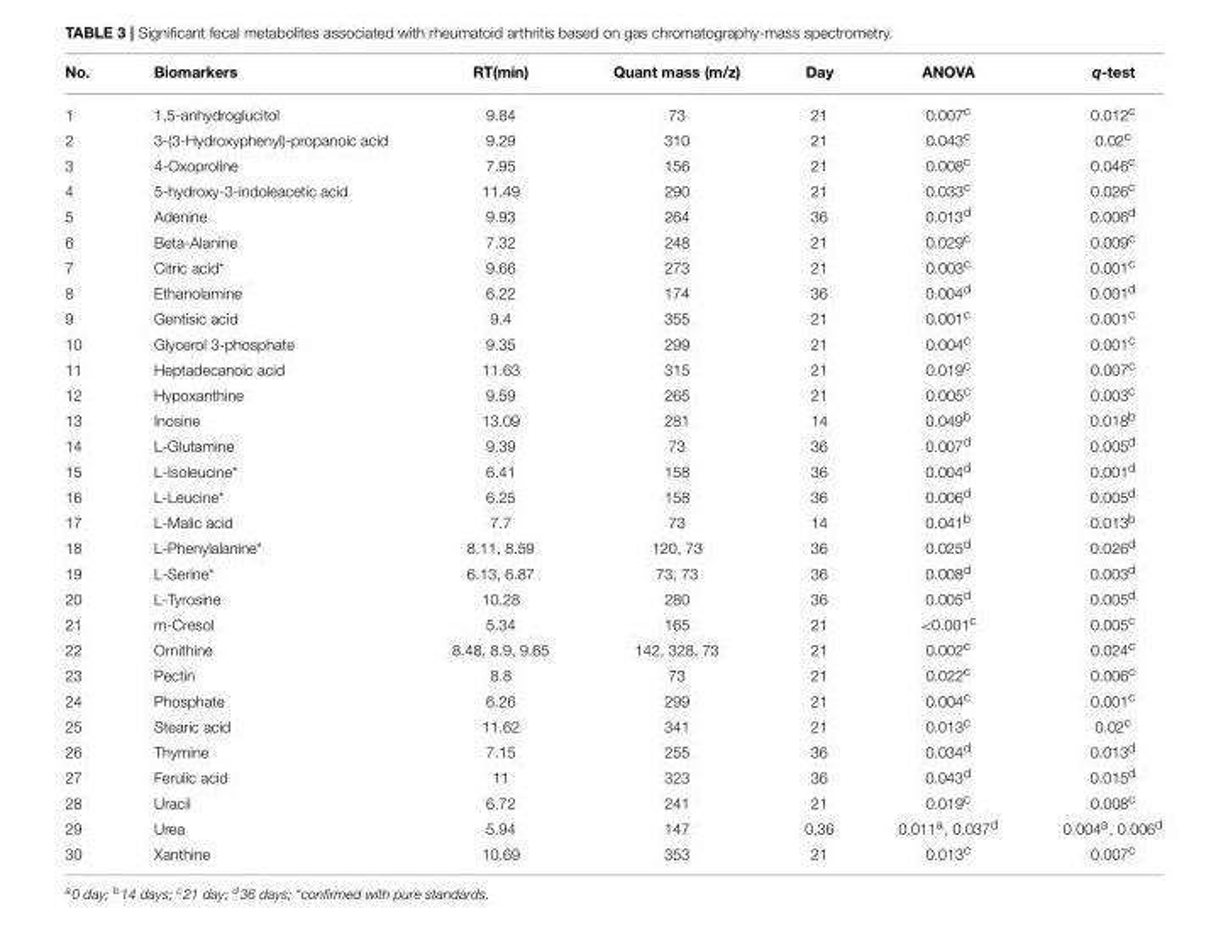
<table><thead><tr><td>No.</td><td>Biomarkers</td><td>RT(min)</td><td>Quant mass (m/z)</td><td>Day</td><td>ANOVA</td><td>q-test</td></tr></thead><tbody><tr><td>1</td><td>1,5-anhydroglucitol</td><td>9.84</td><td>73</td><td>21</td><td>0.007<sup>c</sup></td><td>0.012<sup>c</sup></td></tr><tr><td>2</td><td>3-(3-Hydroxyphenyl)-propanoic acid</td><td>9.29</td><td>310</td><td>21</td><td>0.043<sup>c</sup></td><td>0.02<sup>c</sup></td></tr><tr><td>3</td><td>4-Oxoproline</td><td>7.95</td><td>156</td><td>21</td><td>0.008<sup>c</sup></td><td>0.046<sup>c</sup></td></tr><tr><td>4</td><td>5-hydroxy-3-indoleacetic acid</td><td>11.49</td><td>290</td><td>21</td><td>0.033<sup>c</sup></td><td>0.026<sup>c</sup></td></tr><tr><td>5</td><td>Adenine</td><td>9.93</td><td>264</td><td>36</td><td>0.013<sup>d</sup></td><td>0.006<sup>d</sup></td></tr><tr><td>6</td><td>Beta-Alanine</td><td>7.32</td><td>248</td><td>21</td><td>0.029<sup>c</sup></td><td>0.009<sup>c</sup></td></tr><tr><td>7</td><td>Citric acid*</td><td>9.66</td><td>273</td><td>21</td><td>0.003<sup>c</sup></td><td>0.001<sup>c</sup></td></tr><tr><td>8</td><td>Ethanolamine</td><td>6.22</td><td>174</td><td>36</td><td>0.004<sup>d</sup></td><td>0.001<sup>d</sup></td></tr><tr><td>9</td><td>Gentisic acid</td><td>9.4</td><td>355</td><td>21</td><td>0.001<sup>c</sup></td><td>0.001<sup>c</sup></td></tr><tr><td>10</td><td>Glycerol 3-phosphate</td><td>9.35</td><td>299</td><td>21</td><td>0.004<sup>c</sup></td><td>0.001<sup>c</sup></td></tr><tr><td>11</td><td>Heptadecanoic acid</td><td>11.63</td><td>315</td><td>21</td><td>0.019<sup>c</sup></td><td>0.007<sup>c</sup></td></tr><tr><td>12</td><td>Hypoxanthine</td><td>9.59</td><td>265</td><td>21</td><td>0.005<sup>c</sup></td><td>0.003<sup>c</sup></td></tr><tr><td>13</td><td>Inosine</td><td>13.09</td><td>281</td><td>14</td><td>0.049<sup>b</sup></td><td>0.018<sup>b</sup></td></tr><tr><td>14</td><td>L-Glutamine</td><td>9.39</td><td>73</td><td>36</td><td>0.007<sup>d</sup></td><td>0.005<sup>d</sup></td></tr><tr><td>15</td><td>L-Isoleucine*</td><td>6.41</td><td>158</td><td>36</td><td>0.004<sup>d</sup></td><td>0.001<sup>d</sup></td></tr><tr><td>16</td><td>L-Leucine*</td><td>6.25</td><td>158</td><td>36</td><td>0.006<sup>d</sup></td><td>0.005<sup>d</sup></td></tr><tr><td>17</td><td>L-Malic acid</td><td>7.7</td><td>73</td><td>14</td><td>0.041<sup>b</sup></td><td>0.013<sup>b</sup></td></tr><tr><td>18</td><td>L-Phenylalanine*</td><td>8.11, 8.59</td><td>120, 73</td><td>36</td><td>0.025<sup>d</sup></td><td>0.026<sup>d</sup></td></tr><tr><td>19</td><td>L-Serine*</td><td>6.13, 6.87</td><td>73, 73</td><td>36</td><td>0.008<sup>d</sup></td><td>0.003<sup>d</sup></td></tr><tr><td>20</td><td>L-Tyrosine</td><td>10.28</td><td>280</td><td>36</td><td>0.005<sup>d</sup></td><td>0.005<sup>d</sup></td></tr><tr><td>21</td><td>m-Cresol</td><td>5.34</td><td>165</td><td>21</td><td>&lt;0.001<sup>c</sup></td><td>0.005<sup>c</sup></td></tr><tr><td>22</td><td>Ornithine</td><td>8.48, 8.9, 9.65</td><td>142, 328, 73</td><td>21</td><td>0.002<sup>c</sup></td><td>0.024<sup>c</sup></td></tr><tr><td>23</td><td>Pectin</td><td>8.8</td><td>73</td><td>21</td><td>0.022<sup>c</sup></td><td>0.006<sup>c</sup></td></tr><tr><td>24</td><td>Phosphate</td><td>6.26</td><td>299</td><td>21</td><td>0.004<sup>c</sup></td><td>0.001<sup>c</sup></td></tr><tr><td>25</td><td>Stearic acid</td><td>11.62</td><td>341</td><td>21</td><td>0.013<sup>c</sup></td><td>0.02<sup>c</sup></td></tr><tr><td>26</td><td>Thymine</td><td>7.15</td><td>255</td><td>36</td><td>0.034<sup>d</sup></td><td>0.013<sup>d</sup></td></tr><tr><td>27</td><td>Ferulic acid</td><td>11</td><td>323</td><td>36</td><td>0.043<sup>d</sup></td><td>0.015<sup>d</sup></td></tr><tr><td>28</td><td>Uracil</td><td>6.72</td><td>241</td><td>21</td><td>0.019<sup>c</sup></td><td>0.008<sup>c</sup></td></tr><tr><td>29</td><td>Urea</td><td>5.94</td><td>147</td><td>0,36</td><td>0.011<sup>a</sup>, 0.037<sup>d</sup></td><td>0.004<sup>a</sup>, 0.006<sup>d</sup></td></tr><tr><td>30</td><td>Xanthine</td><td>10.69</td><td>353</td><td>21</td><td>0.013<sup>c</sup></td><td>0.007<sup>c</sup></td></tr></tbody></table>